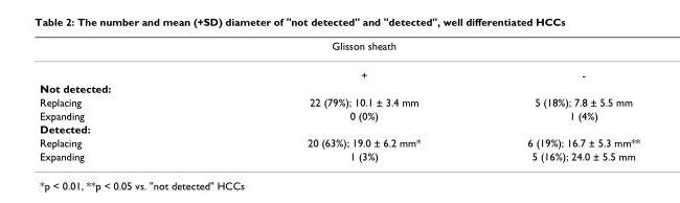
<table><thead><tr><td></td><td>Glisson sheath</td><td></td></tr></thead><tbody><tr><td></td><td>+</td><td>-</td></tr><tr><td colspan="3">Not detected:</td></tr><tr><td>Replacing</td><td>22 (79%); 10.1 ± 3.4 mm</td><td>5 (18%); 7.8 ± 5.5 mm</td></tr><tr><td>Expanding</td><td>0 (0%)</td><td>1 (4%)</td></tr><tr><td colspan="3">Detected:</td></tr><tr><td>Replacing</td><td>20 (63%); 19.0 ± 6.2 mm*</td><td>6 (19%); 16.7 ± 5.3 mm**</td></tr><tr><td>Expanding</td><td>1 (3%)</td><td>5 (16%); 24.0 ± 5.5 mm</td></tr></tbody></table>